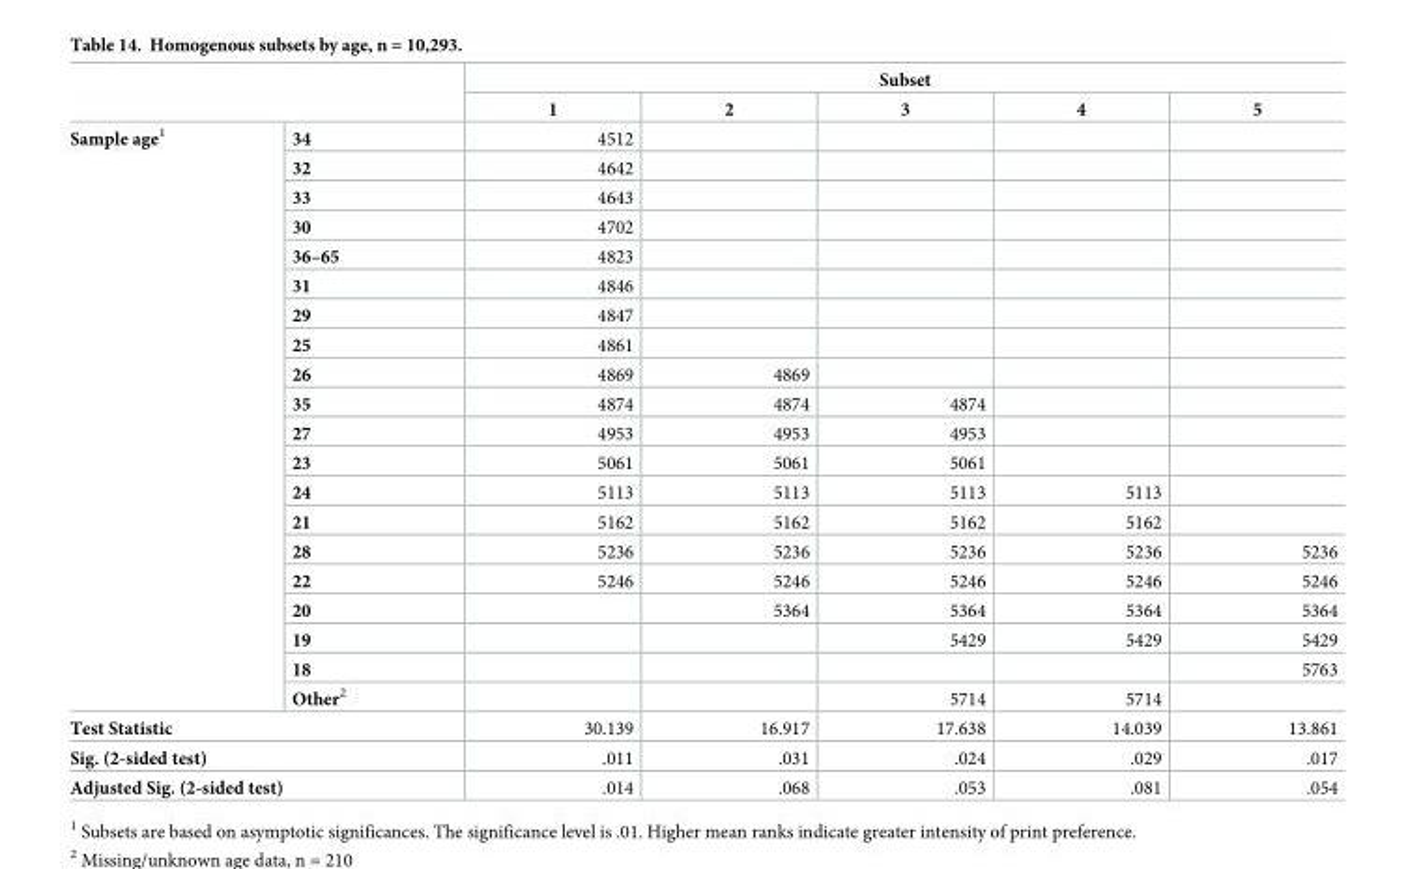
<table><thead><tr><td rowspan="2"></td><td rowspan="2"></td><td colspan="5">Subset</td></tr><tr><td>1</td><td>2</td><td>3</td><td>4</td><td>5</td></tr></thead><tbody><tr><td rowspan="20">Sample age<sup>1</sup></td><td>34</td><td>4512</td><td></td><td></td><td></td><td></td></tr><tr><td>32</td><td>4642</td><td></td><td></td><td></td><td></td></tr><tr><td>33</td><td>4643</td><td></td><td></td><td></td><td></td></tr><tr><td>30</td><td>4702</td><td></td><td></td><td></td><td></td></tr><tr><td>36–65</td><td>4823</td><td></td><td></td><td></td><td></td></tr><tr><td>31</td><td>4846</td><td></td><td></td><td></td><td></td></tr><tr><td>29</td><td>4847</td><td></td><td></td><td></td><td></td></tr><tr><td>25</td><td>4861</td><td></td><td></td><td></td><td></td></tr><tr><td>26</td><td>4869</td><td>4869</td><td></td><td></td><td></td></tr><tr><td>35</td><td>4874</td><td>4874</td><td>4874</td><td></td><td></td></tr><tr><td>27</td><td>4953</td><td>4953</td><td>4953</td><td></td><td></td></tr><tr><td>23</td><td>5061</td><td>5061</td><td>5061</td><td></td><td></td></tr><tr><td>24</td><td>5113</td><td>5113</td><td>5113</td><td>5113</td><td></td></tr><tr><td>21</td><td>5162</td><td>5162</td><td>5162</td><td>5162</td><td></td></tr><tr><td>28</td><td>5236</td><td>5236</td><td>5236</td><td>5236</td><td>5236</td></tr><tr><td>22</td><td>5246</td><td>5246</td><td>5246</td><td>5246</td><td>5246</td></tr><tr><td>20</td><td></td><td>5364</td><td>5364</td><td>5364</td><td>5364</td></tr><tr><td>19</td><td></td><td></td><td>5429</td><td>5429</td><td>5429</td></tr><tr><td>18</td><td></td><td></td><td></td><td></td><td>5763</td></tr><tr><td>Other<sup>2</sup></td><td></td><td></td><td>5714</td><td>5714</td><td></td></tr><tr><td colspan="2">Test Statistic</td><td>30.139</td><td>16.917</td><td>17.638</td><td>14.039</td><td>13.861</td></tr><tr><td colspan="2">Sig. (2-sided test)</td><td>.011</td><td>.031</td><td>.024</td><td>.029</td><td>.017</td></tr><tr><td colspan="2">Adjusted Sig. (2-sided test)</td><td>.014</td><td>.068</td><td>.053</td><td>.081</td><td>.054</td></tr></tbody></table>